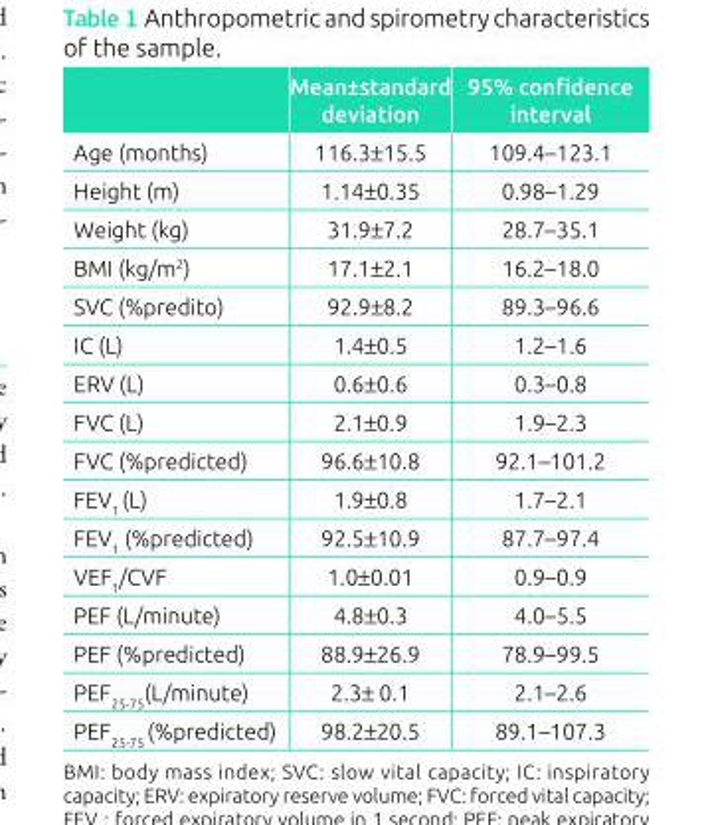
<table><thead><tr><td></td><td>Mean±standard deviation</td><td>95% confidence interval</td></tr></thead><tbody><tr><td>Age (months)</td><td>116.3±15.5</td><td>109.4–123.1</td></tr><tr><td>Height (m)</td><td>1.14±0.35</td><td>0.98–1.29</td></tr><tr><td>Weight (kg)</td><td>31.9±7.2</td><td>28.7–35.1</td></tr><tr><td>BMI (kg/m<sup>2</sup>)</td><td>17.1±2.1</td><td>16.2–18.0</td></tr><tr><td>SVC (%predito)</td><td>92.9±8.2</td><td>89.3–96.6</td></tr><tr><td>IC (L)</td><td>1.4±0.5</td><td>1.2–1.6</td></tr><tr><td>ERV (L)</td><td>0.6±0.6</td><td>0.3–0.8</td></tr><tr><td>FVC (L)</td><td>2.1±0.9</td><td>1.9–2.3</td></tr><tr><td>FVC (%predicted)</td><td>96.6±10.8</td><td>92.1–101.2</td></tr><tr><td>FEV<sub>1</sub> (L)</td><td>1.9±0.8</td><td>1.7–2.1</td></tr><tr><td>FEV<sub>1</sub> (%predicted)</td><td>92.5±10.9</td><td>87.7–97.4</td></tr><tr><td>VEF<sub>1</sub>/CVF</td><td>1.0±0.01</td><td>0.9–0.9</td></tr><tr><td>PEF (L/minute)</td><td>4.8±0.3</td><td>4.0–5.5</td></tr><tr><td>PEF (%predicted)</td><td>88.9±26.9</td><td>78.9–99.5</td></tr><tr><td>PEF<sub>25-75</sub>(L/minute)</td><td>2.3± 0.1</td><td>2.1–2.6</td></tr><tr><td>PEF<sub>25-75</sub> (%predicted)</td><td>98.2±20.5</td><td>89.1–107.3</td></tr></tbody></table>